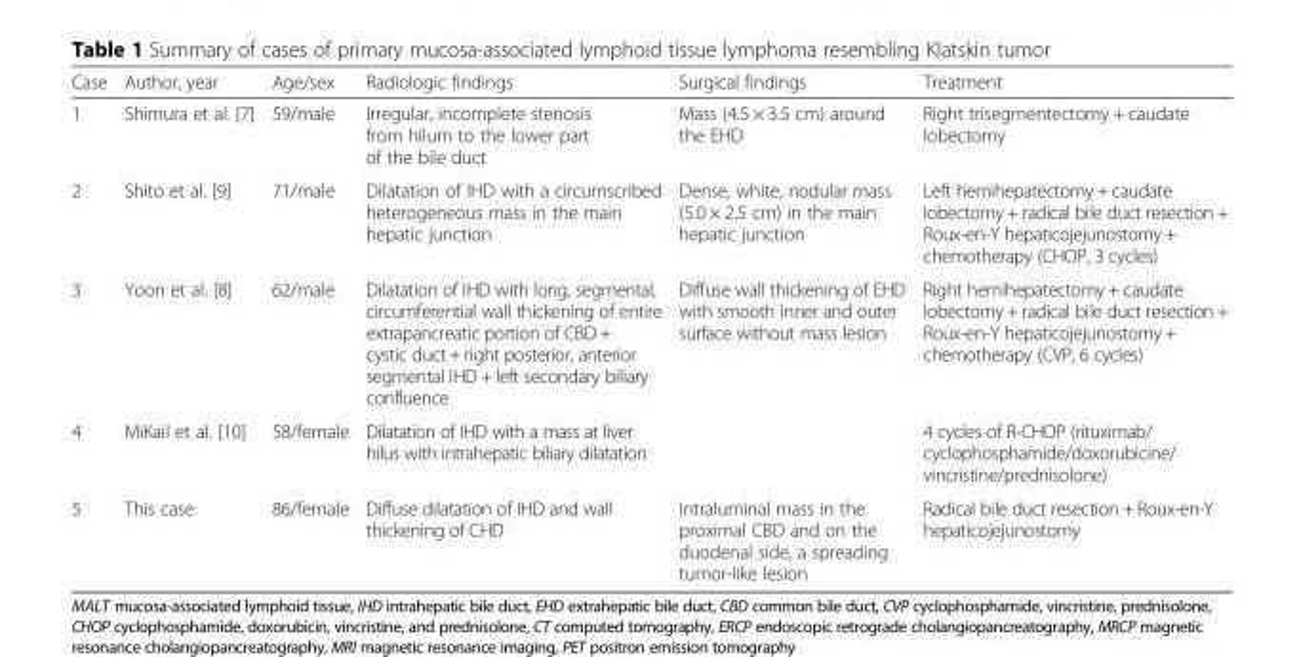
<table><thead><tr><td>Case</td><td>Author, year</td><td>Age/sex</td><td>Radiologic findings</td><td>Surgical findings</td><td>Treatment</td></tr></thead><tbody><tr><td>1</td><td>Shimura et al. [7]</td><td>59/male</td><td>Irregular, incomplete stenosis from hilum to the lower part of the bile duct</td><td>Mass (4.5 × 3.5 cm) around the EHD</td><td>Right trisegmentectomy + caudate lobectomy</td></tr><tr><td>2</td><td>Shito et al. [9]</td><td>71/male</td><td>Dilatation of IHD with a circumscribed heterogeneous mass in the main hepatic junction</td><td>Dense, white, nodular mass (5.0 × 2.5 cm) in the main hepatic junction</td><td>Left hemihepatectomy + caudate lobectomy + radical bile duct resection + Roux-en-Y hepaticojejunostomy + chemotherapy (CHOP, 3 cycles)</td></tr><tr><td>3</td><td>Yoon et al. [8]</td><td>62/male</td><td>Dilatation of IHD with long, segmental, circumferential wall thickening of entire extrapancreatic portion of CBD + cystic duct + right posterior, anterior segmental IHD + left secondary biliary confluence</td><td>Diffuse wall thickening of EHD with smooth inner and outer surface without mass lesion</td><td>Right hemihepatectomy + caudate lobectomy + radical bile duct resection + Roux-en-Y hepaticojejunostomy + chemotherapy (CVP, 6 cycles)</td></tr><tr><td>4</td><td>MiKail et al. [10]</td><td>58/female</td><td>Dilatation of IHD with a mass at liver hilus with intrahepatic biliary dilatation</td><td></td><td>4 cycles of R-CHOP (rituximab/ cyclophosphamide/doxorubicine/ vincristine/prednisolone)</td></tr><tr><td>5</td><td>This case</td><td>86/female</td><td>Diffuse dilatation of IHD and wall thickening of CHD</td><td>Intraluminal mass in the proximal CBD and on the duodenal side, a spreading tumor-like lesion</td><td>Radical bile duct resection + Roux-en-Y hepaticojejunostomy</td></tr></tbody></table>